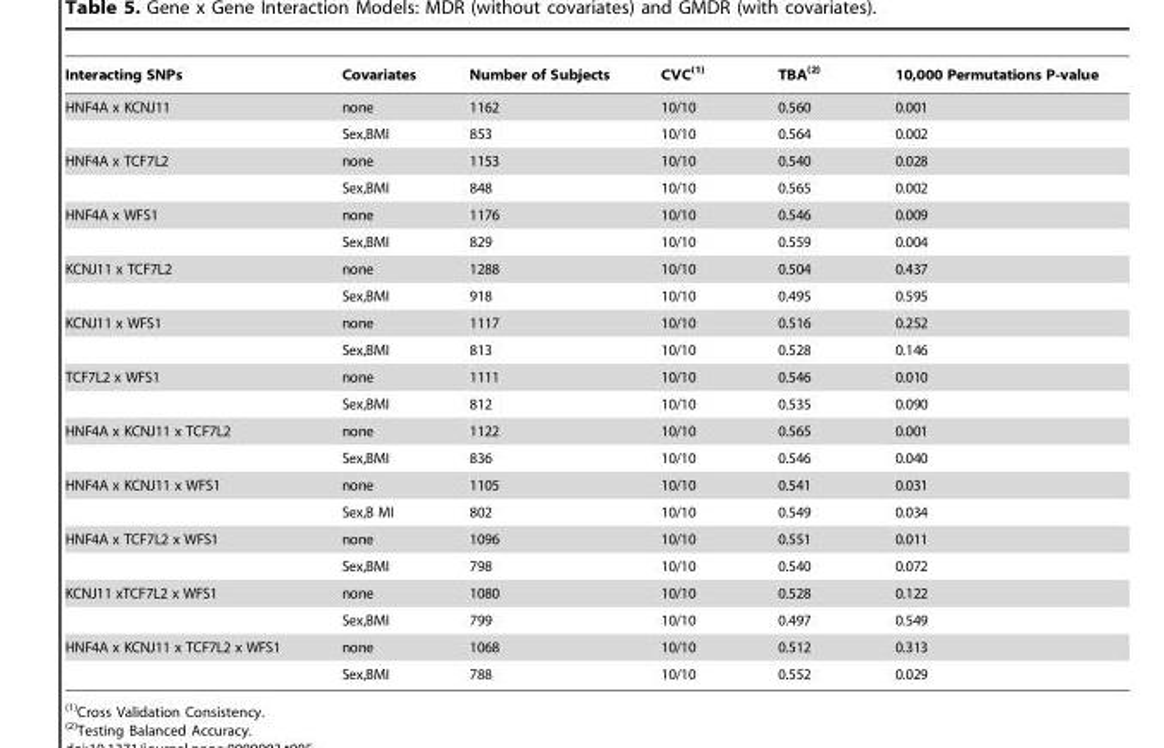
<table><thead><tr><td>Interacting SNPs</td><td>Covariates</td><td>Number of Subjects</td><td>CVC(1)</td><td>TBA(2)</td><td>10,000 Permutations P-value</td></tr></thead><tbody><tr><td rowspan="2">HNF4A x KCNJ11</td><td>none</td><td>1162</td><td>10/10</td><td>0.560</td><td>0.001</td></tr><tr><td>Sex,BMI</td><td>853</td><td>10/10</td><td>0.564</td><td>0.002</td></tr><tr><td rowspan="2">HNF4A x TCF7L2</td><td>none</td><td>1153</td><td>10/10</td><td>0.540</td><td>0.028</td></tr><tr><td>Sex,BMI</td><td>848</td><td>10/10</td><td>0.565</td><td>0.002</td></tr><tr><td rowspan="2">HNF4A x WFS1</td><td>none</td><td>1176</td><td>10/10</td><td>0.546</td><td>0.009</td></tr><tr><td>Sex,BMI</td><td>829</td><td>10/10</td><td>0.559</td><td>0.004</td></tr><tr><td rowspan="2">KCNJ11 x TCF7L2</td><td>none</td><td>1288</td><td>10/10</td><td>0.504</td><td>0.437</td></tr><tr><td>Sex,BMI</td><td>918</td><td>10/10</td><td>0.495</td><td>0.595</td></tr><tr><td rowspan="2">KCNJ11 x WFS1</td><td>none</td><td>1117</td><td>10/10</td><td>0.516</td><td>0.252</td></tr><tr><td>Sex,BMI</td><td>813</td><td>10/10</td><td>0.528</td><td>0.146</td></tr><tr><td rowspan="2">TCF7L2 x WFS1</td><td>none</td><td>1111</td><td>10/10</td><td>0.546</td><td>0.010</td></tr><tr><td>Sex,BMI</td><td>812</td><td>10/10</td><td>0.535</td><td>0.090</td></tr><tr><td rowspan="2">HNF4A x KCNJ11 x TCF7L2</td><td>none</td><td>1122</td><td>10/10</td><td>0.565</td><td>0.001</td></tr><tr><td>Sex,BMI</td><td>836</td><td>10/10</td><td>0.546</td><td>0.040</td></tr><tr><td rowspan="2">HNF4A x KCNJ11 x WFS1</td><td>none</td><td>1105</td><td>10/10</td><td>0.541</td><td>0.031</td></tr><tr><td>Sex,B MI</td><td>802</td><td>10/10</td><td>0.549</td><td>0.034</td></tr><tr><td rowspan="2">HNF4A x TCF7L2 x WFS1</td><td>none</td><td>1096</td><td>10/10</td><td>0.551</td><td>0.011</td></tr><tr><td>Sex,BMI</td><td>798</td><td>10/10</td><td>0.540</td><td>0.072</td></tr><tr><td rowspan="2">KCNJ11 xTCF7L2 x WFS1</td><td>none</td><td>1080</td><td>10/10</td><td>0.528</td><td>0.122</td></tr><tr><td>Sex,BMI</td><td>799</td><td>10/10</td><td>0.497</td><td>0.549</td></tr><tr><td rowspan="2">HNF4A x KCNJ11 x TCF7L2 x WFS1</td><td>none</td><td>1068</td><td>10/10</td><td>0.512</td><td>0.313</td></tr><tr><td>Sex,BMI</td><td>788</td><td>10/10</td><td>0.552</td><td>0.029</td></tr></tbody></table>